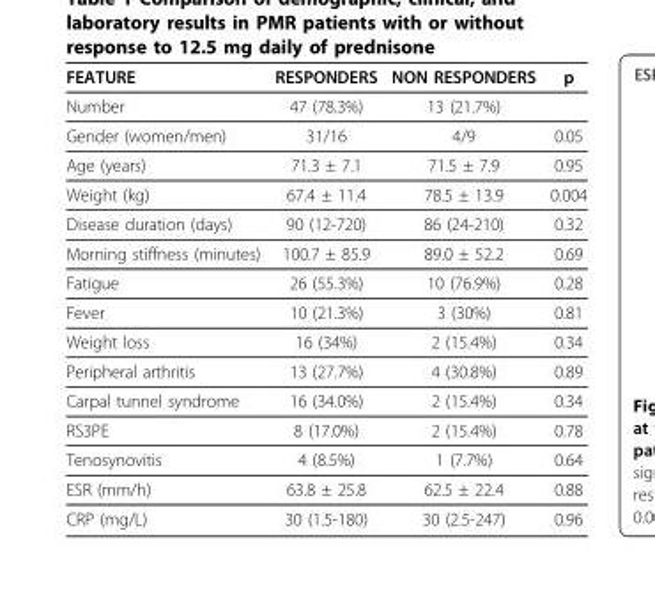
<table><thead><tr><td>FEATURE</td><td>RESPONDERS</td><td>NON RESPONDERS</td><td>p</td></tr></thead><tbody><tr><td>Number</td><td>47 (78.3%)</td><td>13 (21.7%)</td><td></td></tr><tr><td>Gender (women/men)</td><td>31/16</td><td>4/9</td><td>0.05</td></tr><tr><td>Age (years)</td><td>71.3 ± 7.1</td><td>71.5 ± 7.9</td><td>0.95</td></tr><tr><td>Weight (kg)</td><td>67.4 ± 11.4</td><td>78.5 ± 13.9</td><td>0.004</td></tr><tr><td>Disease duration (days)</td><td>90 (12-720)</td><td>86 (24-210)</td><td>0.32</td></tr><tr><td>Morning stiffness (minutes)</td><td>100.7 ± 85.9</td><td>89.0 ± 52.2</td><td>0.69</td></tr><tr><td>Fatigue</td><td>26 (55.3%)</td><td>10 (76.9%)</td><td>0.28</td></tr><tr><td>Fever</td><td>10 (21.3%)</td><td>3 (30%)</td><td>0.81</td></tr><tr><td>Weight loss</td><td>16 (34%)</td><td>2 (15.4%)</td><td>0.34</td></tr><tr><td>Peripheral arthritis</td><td>13 (27.7%)</td><td>4 (30.8%)</td><td>0.89</td></tr><tr><td>Carpal tunnel syndrome</td><td>16 (34.0%)</td><td>2 (15.4%)</td><td>0.34</td></tr><tr><td>RS3PE</td><td>8 (17.0%)</td><td>2 (15.4%)</td><td>0.78</td></tr><tr><td>Tenosynovitis</td><td>4 (8.5%)</td><td>1 (7.7%)</td><td>0.64</td></tr><tr><td>ESR (mm/h)</td><td>63.8 ± 25.8</td><td>62.5 ± 22.4</td><td>0.88</td></tr><tr><td>CRP (mg/L)</td><td>30 (1.5-180)</td><td>30 (2.5-247)</td><td>0.96</td></tr></tbody></table>